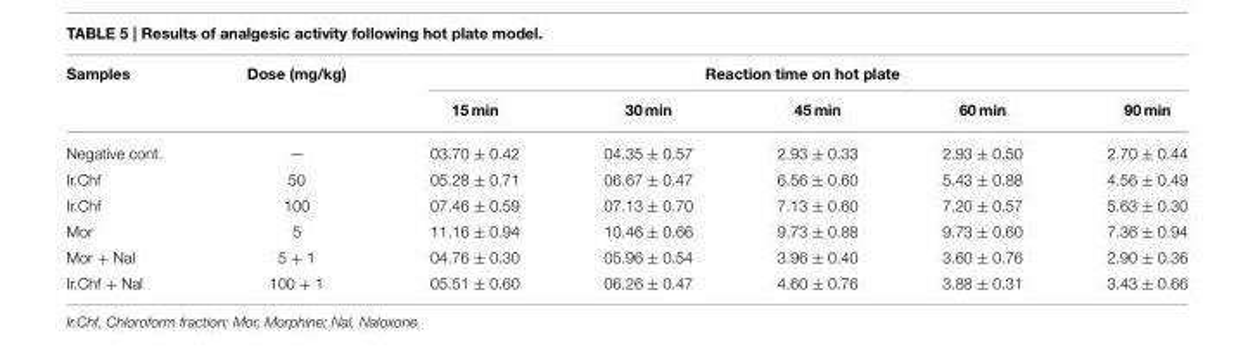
<table><thead><tr><td rowspan="2">Samples</td><td rowspan="2">Dose (mg/kg)</td><td colspan="5">Reaction time on hot plate</td></tr><tr><td>15 min</td><td>30 min</td><td>45 min</td><td>60 min</td><td>90 min</td></tr></thead><tbody><tr><td>Negative cont.</td><td>—</td><td>03.70 ± 0.42</td><td>04.35 ± 0.57</td><td>2.93 ± 0.33</td><td>2.93 ± 0.50</td><td>2.70 ± 0.44</td></tr><tr><td>Ir.Chf</td><td>50</td><td>05.28 ± 0.71</td><td>06.67 ± 0.47</td><td>6.56 ± 0.60</td><td>5.43 ± 0.88</td><td>4.56 ± 0.49</td></tr><tr><td>Ir.Chf</td><td>100</td><td>07.46 ± 0.59</td><td>07.13 ± 0.70</td><td>7.13 ± 0.60</td><td>7.20 ± 0.57</td><td>5.63 ± 0.30</td></tr><tr><td>Mor</td><td>5</td><td>11.16 ± 0.94</td><td>10.46 ± 0.66</td><td>9.73 ± 0.88</td><td>9.73 ± 0.60</td><td>7.36 ± 0.94</td></tr><tr><td>Mor + Nal</td><td>5 + 1</td><td>04.76 ± 0.30</td><td>05.96 ± 0.54</td><td>3.96 ± 0.40</td><td>3.60 ± 0.76</td><td>2.90 ± 0.36</td></tr><tr><td>Ir.Chf + Nal</td><td>100 + 1</td><td>05.51 ± 0.60</td><td>06.26 ± 0.47</td><td>4.60 ± 0.76</td><td>3.88 ± 0.31</td><td>3.43 ± 0.66</td></tr></tbody></table>